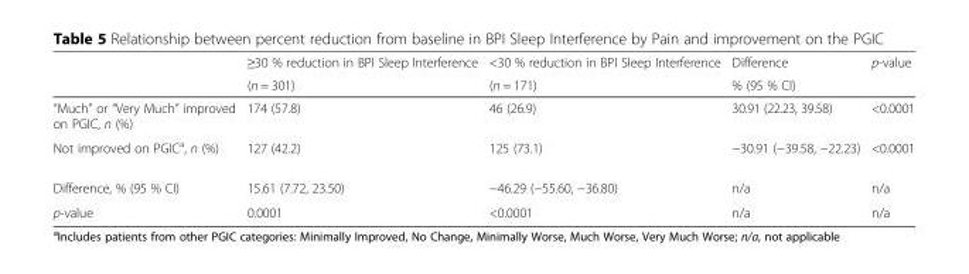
<table><thead><tr><td rowspan="2"></td><td rowspan="2">≥30 % reduction in BPI Sleep Interference (n = 301)</td><td rowspan="2">&lt;30 % reduction in BPI Sleep Interference (n = 171)</td><td rowspan="2">Difference % (95 % CI)</td><td rowspan="2">p-value</td></tr><tr></tr></thead><tbody><tr><td>“Much” or “Very Much” improved on PGIC, n (%)</td><td>174 (57.8)</td><td>46 (26.9)</td><td>30.91 (22.23, 39.58)</td><td>&lt;0.0001</td></tr><tr><td>Not improved on PGIC<sup>a</sup>, n (%)</td><td>127 (42.2)</td><td>125 (73.1)</td><td>−30.91 (−39.58, −22.23)</td><td>&lt;0.0001</td></tr><tr><td>Difference, % (95 % CI)</td><td>15.61 (7.72, 23.50)</td><td>−46.29 (−55.60, −36.80)</td><td>n/a</td><td>n/a</td></tr><tr><td>p-value</td><td>0.0001</td><td>&lt;0.0001</td><td>n/a</td><td>n/a</td></tr></tbody></table>